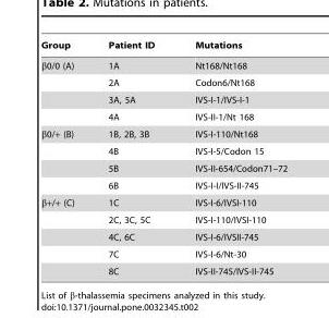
<table><thead><tr><td>Group</td><td>Patient ID</td><td>Mutations</td></tr></thead><tbody><tr><td rowspan="4">β0/0 (A)</td><td>1A</td><td>Nt168/Nt168</td></tr><tr><td>2A</td><td>Codon6/Nt168</td></tr><tr><td>3A, 5A</td><td>IVS-I-1/IVS-I-1</td></tr><tr><td>4A</td><td>IVS-II-1/Nt 168</td></tr><tr><td rowspan="4">β0/+ (B)</td><td>1B, 2B, 3B</td><td>IVS-I-110/Nt168</td></tr><tr><td>4B</td><td>IVS-I-5/Codon 15</td></tr><tr><td>5B</td><td>IVS-II-654/Codon71–72</td></tr><tr><td>6B</td><td>IVS-I-I/IVS-II-745</td></tr><tr><td rowspan="5">β+/+ (C)</td><td>1C</td><td>IVS-I-6/IVSI-110</td></tr><tr><td>2C, 3C, 5C</td><td>IVS-I-110/IVSI-110</td></tr><tr><td>4C, 6C</td><td>IVS-I-6/IVSII-745</td></tr><tr><td>7C</td><td>IVS-I-6/Nt-30</td></tr><tr><td>8C</td><td>IVS-II-745/IVS-II-745</td></tr></tbody></table>